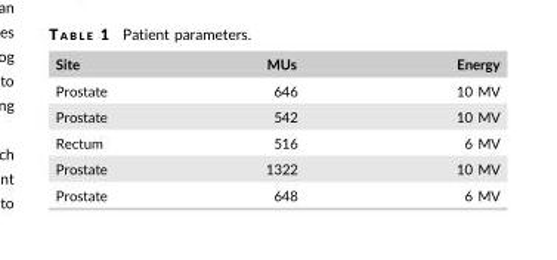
<table><thead><tr><td>Site</td><td>MUs</td><td>Energy</td></tr></thead><tbody><tr><td>Prostate</td><td>646</td><td>10 MV</td></tr><tr><td>Prostate</td><td>542</td><td>10 MV</td></tr><tr><td>Rectum</td><td>516</td><td>6 MV</td></tr><tr><td>Prostate</td><td>1322</td><td>10 MV</td></tr><tr><td>Prostate</td><td>648</td><td>6 MV</td></tr></tbody></table>